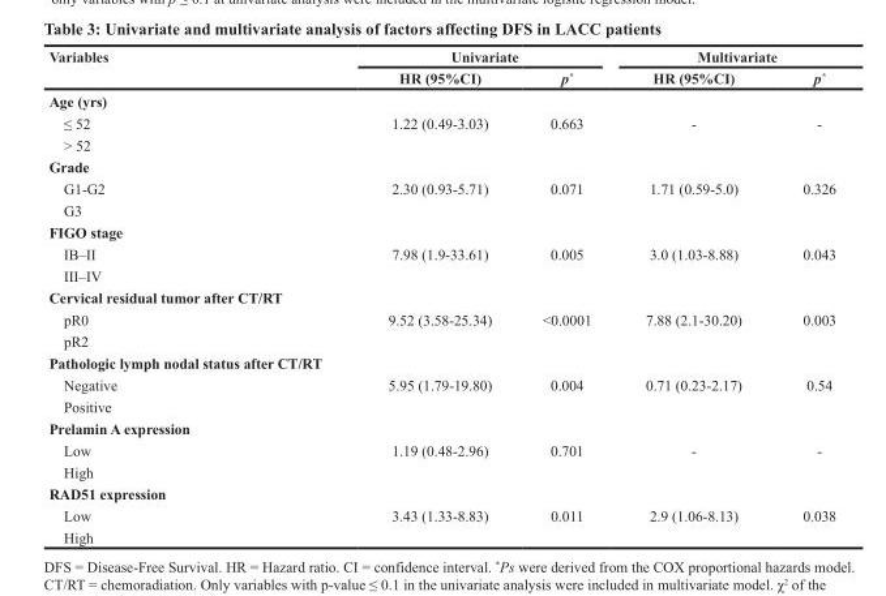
<table><thead><tr><td rowspan="2">Variables</td><td colspan="2">Univariate</td><td colspan="2">Multivariate</td></tr><tr><td>HR (95%CI)</td><td>p*</td><td>HR (95%CI)</td><td>p*</td></tr></thead><tbody><tr><td colspan="5">Age (yrs)</td></tr><tr><td>≤ 52</td><td>1.22 (0.49-3.03)</td><td>0.663</td><td>-</td><td>-</td></tr><tr><td colspan="5">&gt; 52</td></tr><tr><td colspan="5">Grade</td></tr><tr><td>G1-G2</td><td>2.30 (0.93-5.71)</td><td>0.071</td><td>1.71 (0.59-5.0)</td><td>0.326</td></tr><tr><td colspan="5">G3</td></tr><tr><td colspan="5">FIGO stage</td></tr><tr><td>IB–II</td><td>7.98 (1.9-33.61)</td><td>0.005</td><td>3.0 (1.03-8.88)</td><td>0.043</td></tr><tr><td colspan="5">III–IV</td></tr><tr><td colspan="5">Cervical residual tumor after CT/RT</td></tr><tr><td>pR0</td><td>9.52 (3.58-25.34)</td><td>&lt;0.0001</td><td>7.88 (2.1-30.20)</td><td>0.003</td></tr><tr><td colspan="5">pR2</td></tr><tr><td colspan="5">Pathologic lymph nodal status after CT/RT</td></tr><tr><td>Negative</td><td>5.95 (1.79-19.80)</td><td>0.004</td><td>0.71 (0.23-2.17)</td><td>0.54</td></tr><tr><td colspan="5">Positive</td></tr><tr><td colspan="5">Prelamin A expression</td></tr><tr><td>Low</td><td>1.19 (0.48-2.96)</td><td>0.701</td><td>-</td><td>-</td></tr><tr><td colspan="5">High</td></tr><tr><td colspan="5">RAD51 expression</td></tr><tr><td>Low</td><td>3.43 (1.33-8.83)</td><td>0.011</td><td>2.9 (1.06-8.13)</td><td>0.038</td></tr><tr><td>High</td><td></td><td></td><td></td><td></td></tr></tbody></table>